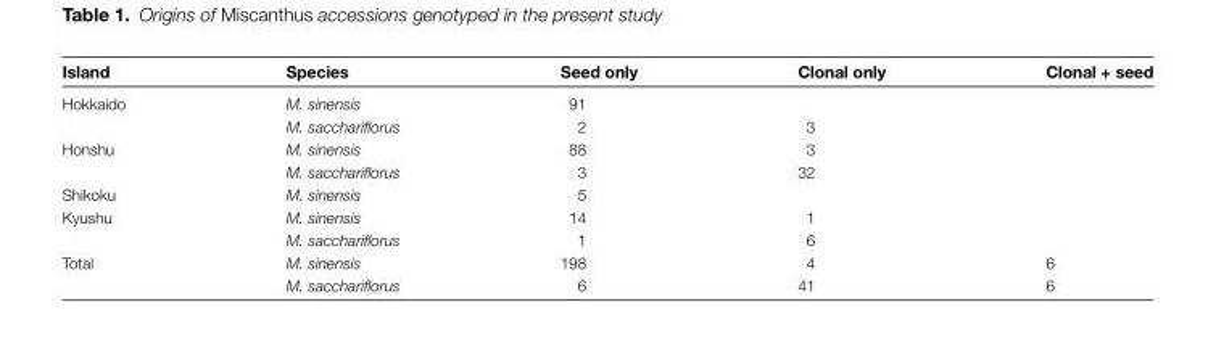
<table><thead><tr><td>Island</td><td>Species</td><td>Seed only</td><td>Clonal only</td><td>Clonal + seed</td></tr></thead><tbody><tr><td rowspan="2">Hokkaido</td><td>M. sinensis</td><td>91</td><td></td><td></td></tr><tr><td>M. sacchariflorus</td><td>2</td><td>3</td><td></td></tr><tr><td rowspan="2">Honshu</td><td>M. sinensis</td><td>88</td><td>3</td><td></td></tr><tr><td>M. sacchariflorus</td><td>3</td><td>32</td><td></td></tr><tr><td>Shikoku</td><td>M. sinensis</td><td>5</td><td></td><td></td></tr><tr><td rowspan="2">Kyushu</td><td>M. sinensis</td><td>14</td><td>1</td><td></td></tr><tr><td>M. sacchariflorus</td><td>1</td><td>6</td><td></td></tr><tr><td rowspan="2">Total</td><td>M. sinensis</td><td>198</td><td>4</td><td>6</td></tr><tr><td>M. sacchariflorus</td><td>6</td><td>41</td><td>6</td></tr></tbody></table>